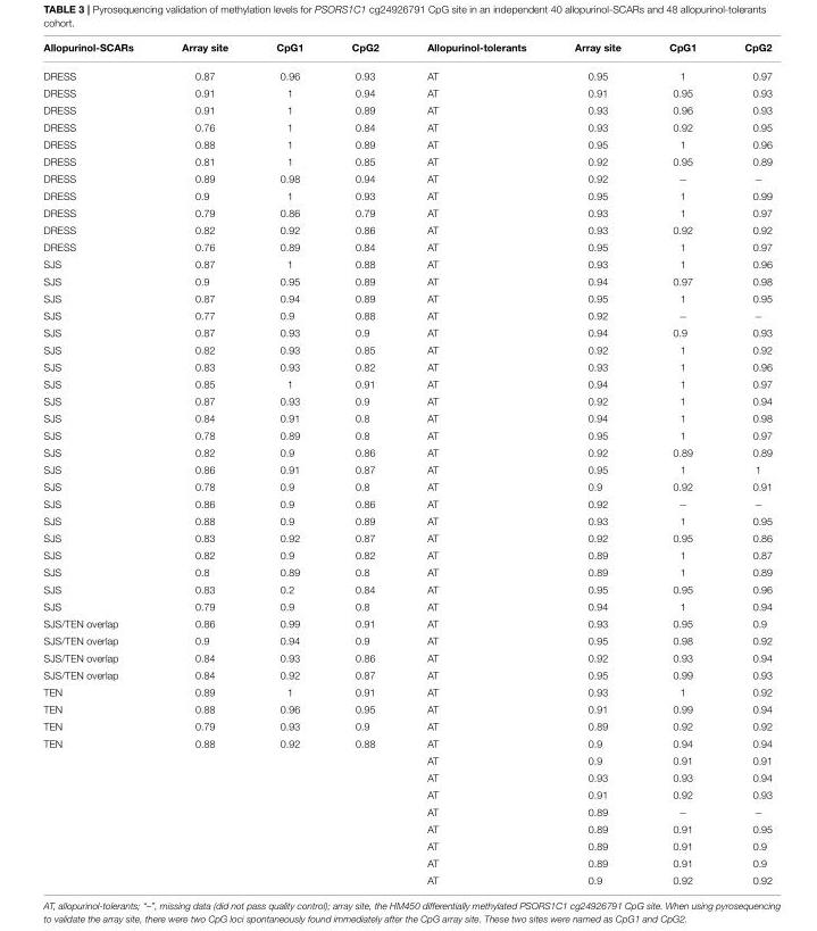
<table><thead><tr><td>Allopurinol-SCARs</td><td>Array site</td><td>CpG1</td><td>CpG2</td><td>Allopurinol-tolerants</td><td>Array site</td><td>CpG1</td><td>CpG2</td></tr></thead><tbody><tr><td>DRESS</td><td>0.87</td><td>0.96</td><td>0.93</td><td>AT</td><td>0.95</td><td>1</td><td>0.97</td></tr><tr><td>DRESS</td><td>0.91</td><td>1</td><td>0.94</td><td>AT</td><td>0.91</td><td>0.95</td><td>0.93</td></tr><tr><td>DRESS</td><td>0.91</td><td>1</td><td>0.89</td><td>AT</td><td>0.93</td><td>0.96</td><td>0.93</td></tr><tr><td>DRESS</td><td>0.76</td><td>1</td><td>0.84</td><td>AT</td><td>0.93</td><td>0.92</td><td>0.95</td></tr><tr><td>DRESS</td><td>0.88</td><td>1</td><td>0.89</td><td>AT</td><td>0.95</td><td>1</td><td>0.96</td></tr><tr><td>DRESS</td><td>0.81</td><td>1</td><td>0.85</td><td>AT</td><td>0.92</td><td>0.95</td><td>0.89</td></tr><tr><td>DRESS</td><td>0.89</td><td>0.98</td><td>0.94</td><td>AT</td><td>0.92</td><td>−</td><td>−</td></tr><tr><td>DRESS</td><td>0.9</td><td>1</td><td>0.93</td><td>AT</td><td>0.95</td><td>1</td><td>0.99</td></tr><tr><td>DRESS</td><td>0.79</td><td>0.86</td><td>0.79</td><td>AT</td><td>0.93</td><td>1</td><td>0.97</td></tr><tr><td>DRESS</td><td>0.82</td><td>0.92</td><td>0.86</td><td>AT</td><td>0.93</td><td>0.92</td><td>0.92</td></tr><tr><td>DRESS</td><td>0.76</td><td>0.89</td><td>0.84</td><td>AT</td><td>0.95</td><td>1</td><td>0.97</td></tr><tr><td>SJS</td><td>0.87</td><td>1</td><td>0.88</td><td>AT</td><td>0.93</td><td>1</td><td>0.96</td></tr><tr><td>SJS</td><td>0.9</td><td>0.95</td><td>0.89</td><td>AT</td><td>0.94</td><td>0.97</td><td>0.98</td></tr><tr><td>SJS</td><td>0.87</td><td>0.94</td><td>0.89</td><td>AT</td><td>0.95</td><td>1</td><td>0.95</td></tr><tr><td>SJS</td><td>0.77</td><td>0.9</td><td>0.88</td><td>AT</td><td>0.92</td><td>−</td><td>−</td></tr><tr><td>SJS</td><td>0.87</td><td>0.93</td><td>0.9</td><td>AT</td><td>0.94</td><td>0.9</td><td>0.93</td></tr><tr><td>SJS</td><td>0.82</td><td>0.93</td><td>0.85</td><td>AT</td><td>0.92</td><td>1</td><td>0.92</td></tr><tr><td>SJS</td><td>0.83</td><td>0.93</td><td>0.82</td><td>AT</td><td>0.93</td><td>1</td><td>0.96</td></tr><tr><td>SJS</td><td>0.85</td><td>1</td><td>0.91</td><td>AT</td><td>0.94</td><td>1</td><td>0.97</td></tr><tr><td>SJS</td><td>0.87</td><td>0.93</td><td>0.9</td><td>AT</td><td>0.92</td><td>1</td><td>0.94</td></tr><tr><td>SJS</td><td>0.84</td><td>0.91</td><td>0.8</td><td>AT</td><td>0.94</td><td>1</td><td>0.98</td></tr><tr><td>SJS</td><td>0.78</td><td>0.89</td><td>0.8</td><td>AT</td><td>0.95</td><td>1</td><td>0.97</td></tr><tr><td>SJS</td><td>0.82</td><td>0.9</td><td>0.86</td><td>AT</td><td>0.92</td><td>0.89</td><td>0.89</td></tr><tr><td>SJS</td><td>0.86</td><td>0.91</td><td>0.87</td><td>AT</td><td>0.95</td><td>1</td><td>1</td></tr><tr><td>SJS</td><td>0.78</td><td>0.9</td><td>0.8</td><td>AT</td><td>0.9</td><td>0.92</td><td>0.91</td></tr><tr><td>SJS</td><td>0.86</td><td>0.9</td><td>0.86</td><td>AT</td><td>0.92</td><td>−</td><td>−</td></tr><tr><td>SJS</td><td>0.88</td><td>0.9</td><td>0.89</td><td>AT</td><td>0.93</td><td>1</td><td>0.95</td></tr><tr><td>SJS</td><td>0.83</td><td>0.92</td><td>0.87</td><td>AT</td><td>0.92</td><td>0.95</td><td>0.86</td></tr><tr><td>SJS</td><td>0.82</td><td>0.9</td><td>0.82</td><td>AT</td><td>0.89</td><td>1</td><td>0.87</td></tr><tr><td>SJS</td><td>0.8</td><td>0.89</td><td>0.8</td><td>AT</td><td>0.89</td><td>1</td><td>0.89</td></tr><tr><td>SJS</td><td>0.83</td><td>0.2</td><td>0.84</td><td>AT</td><td>0.95</td><td>0.95</td><td>0.96</td></tr><tr><td>SJS</td><td>0.79</td><td>0.9</td><td>0.8</td><td>AT</td><td>0.94</td><td>1</td><td>0.94</td></tr><tr><td>SJS/TEN overlap</td><td>0.86</td><td>0.99</td><td>0.91</td><td>AT</td><td>0.93</td><td>0.95</td><td>0.9</td></tr><tr><td>SJS/TEN overlap</td><td>0.9</td><td>0.94</td><td>0.9</td><td>AT</td><td>0.95</td><td>0.98</td><td>0.92</td></tr><tr><td>SJS/TEN overlap</td><td>0.84</td><td>0.93</td><td>0.86</td><td>AT</td><td>0.92</td><td>0.93</td><td>0.94</td></tr><tr><td>SJS/TEN overlap</td><td>0.84</td><td>0.92</td><td>0.87</td><td>AT</td><td>0.95</td><td>0.99</td><td>0.93</td></tr><tr><td>TEN</td><td>0.89</td><td>1</td><td>0.91</td><td>AT</td><td>0.93</td><td>1</td><td>0.92</td></tr><tr><td>TEN</td><td>0.88</td><td>0.96</td><td>0.95</td><td>AT</td><td>0.91</td><td>0.99</td><td>0.94</td></tr><tr><td>TEN</td><td>0.79</td><td>0.93</td><td>0.9</td><td>AT</td><td>0.89</td><td>0.92</td><td>0.92</td></tr><tr><td rowspan="9">TEN</td><td>0.88</td><td>0.92</td><td>0.88</td><td>AT</td><td>0.9</td><td>0.94</td><td>0.94</td></tr><tr><td></td><td></td><td></td><td>AT</td><td>0.9</td><td>0.91</td><td>0.91</td></tr><tr><td></td><td></td><td></td><td>AT</td><td>0.93</td><td>0.93</td><td>0.94</td></tr><tr><td></td><td></td><td></td><td>AT</td><td>0.91</td><td>0.92</td><td>0.93</td></tr><tr><td></td><td></td><td></td><td>AT</td><td>0.89</td><td>−</td><td>−</td></tr><tr><td></td><td></td><td></td><td>AT</td><td>0.89</td><td>0.91</td><td>0.95</td></tr><tr><td></td><td></td><td></td><td>AT</td><td>0.89</td><td>0.91</td><td>0.9</td></tr><tr><td></td><td></td><td></td><td>AT</td><td>0.89</td><td>0.91</td><td>0.9</td></tr><tr><td></td><td></td><td></td><td>AT</td><td>0.9</td><td>0.92</td><td>0.92</td></tr></tbody></table>